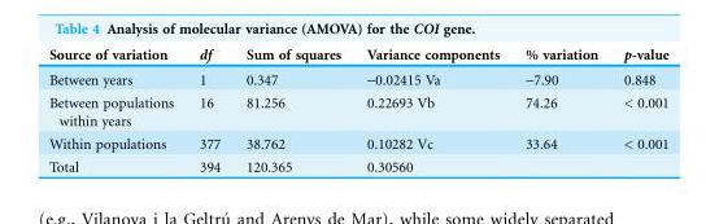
<table><thead><tr><td>Source of variation</td><td>df</td><td>Sum of squares</td><td>Variance components</td><td>% variation</td><td>p-value</td></tr></thead><tbody><tr><td>Between years</td><td>1</td><td>0.347</td><td>-0.02415 Va</td><td>-7.90</td><td>0.848</td></tr><tr><td>Between populations within years</td><td>16</td><td>81.256</td><td>0.22693 Vb</td><td>74.26</td><td>&lt; 0.001</td></tr><tr><td>Within populations</td><td>377</td><td>38.762</td><td>0.10282 Vc</td><td>33.64</td><td>&lt; 0.001</td></tr><tr><td>Total</td><td>394</td><td>120.365</td><td>0.30560</td><td></td><td></td></tr></tbody></table>